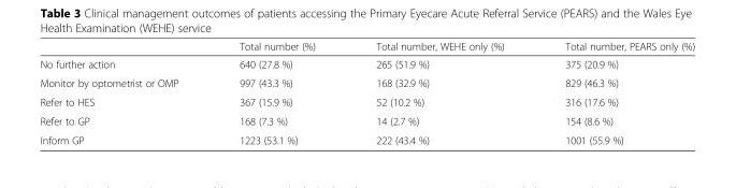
<table><thead><tr><td></td><td>Total number (%)</td><td>Total number, WEHE only (%)</td><td>Total number, PEARS only (%)</td></tr></thead><tbody><tr><td>No further action</td><td>640 (27.8 %)</td><td>265 (51.9 %)</td><td>375 (20.9 %)</td></tr><tr><td>Monitor by optometrist or OMP</td><td>997 (43.3 %)</td><td>168 (32.9 %)</td><td>829 (46.3 %)</td></tr><tr><td>Refer to HES</td><td>367 (15.9 %)</td><td>52 (10.2 %)</td><td>316 (17.6 %)</td></tr><tr><td>Refer to GP</td><td>168 (7.3 %)</td><td>14 (2.7 %)</td><td>154 (8.6 %)</td></tr><tr><td>Inform GP</td><td>1223 (53.1 %)</td><td>222 (43.4 %)</td><td>1001 (55.9 %)</td></tr></tbody></table>